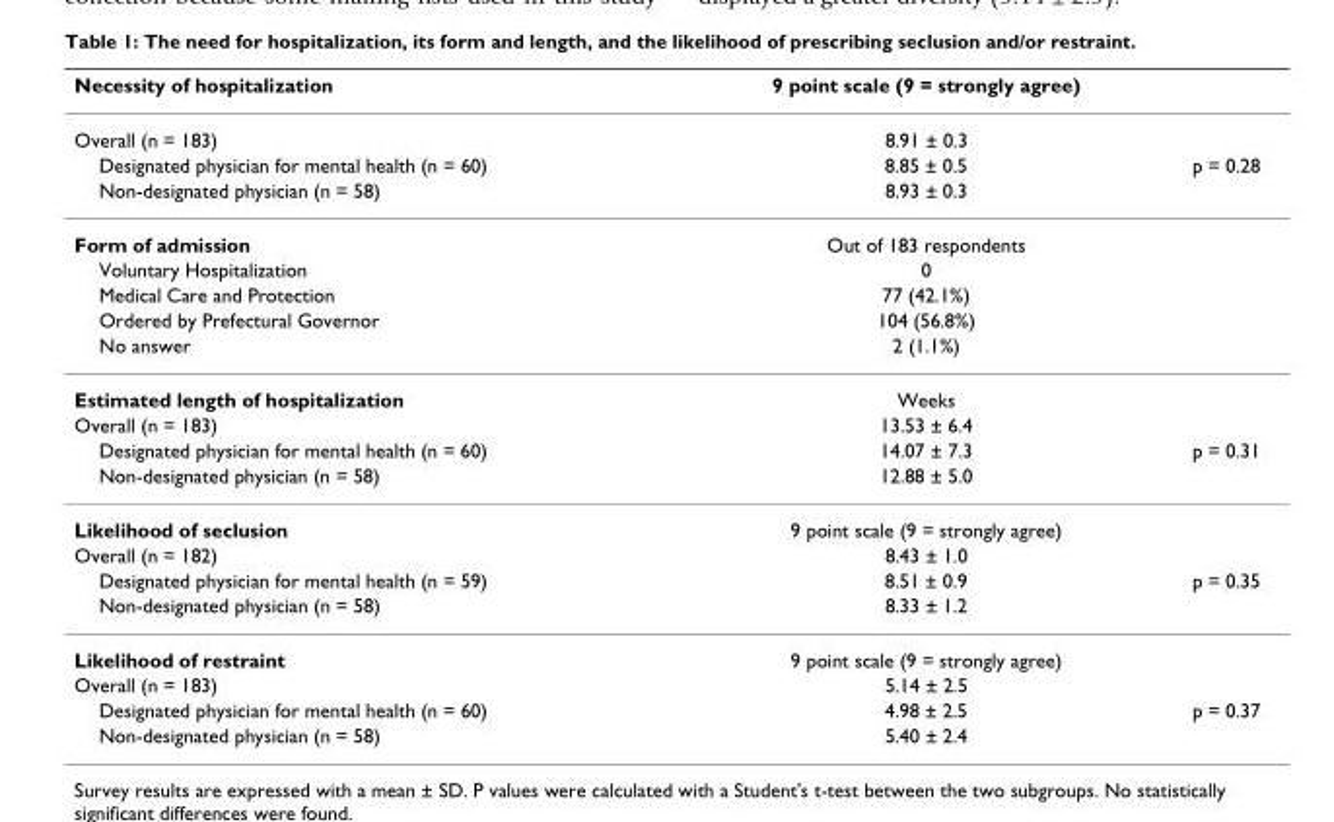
<table><thead><tr><td>Necessity of hospitalization</td><td>9 point scale (9 = strongly agree)</td><td></td></tr></thead><tbody><tr><td>Overall (n = 183)</td><td>8.91 ± 0.3</td><td></td></tr><tr><td>Designated physician for mental health (n = 60)</td><td>8.85 ± 0.5</td><td>p = 0.28</td></tr><tr><td>Non-designated physician (n = 58)</td><td>8.93 ± 0.3</td><td></td></tr><tr><td>Form of admission</td><td>Out of 183 respondents</td><td></td></tr><tr><td>Voluntary Hospitalization</td><td>0</td><td></td></tr><tr><td>Medical Care and Protection</td><td>77 (42.1%)</td><td></td></tr><tr><td>Ordered by Prefectural Governor</td><td>104 (56.8%)</td><td></td></tr><tr><td>No answer</td><td>2 (1.1%)</td><td></td></tr><tr><td>Estimated length of hospitalization</td><td>Weeks</td><td></td></tr><tr><td>Overall (n = 183)</td><td>13.53 ± 6.4</td><td></td></tr><tr><td>Designated physician for mental health (n = 60)</td><td>14.07 ± 7.3</td><td>p = 0.31</td></tr><tr><td>Non-designated physician (n = 58)</td><td>12.88 ± 5.0</td><td></td></tr><tr><td>Likelihood of seclusion</td><td>9 point scale (9 = strongly agree)</td><td></td></tr><tr><td>Overall (n = 182)</td><td>8.43 ± 1.0</td><td></td></tr><tr><td>Designated physician for mental health (n = 59)</td><td>8.51 ± 0.9</td><td>p = 0.35</td></tr><tr><td>Non-designated physician (n = 58)</td><td>8.33 ± 1.2</td><td></td></tr><tr><td>Likelihood of restraint</td><td>9 point scale (9 = strongly agree)</td><td></td></tr><tr><td>Overall (n = 183)</td><td>5.14 ± 2.5</td><td></td></tr><tr><td>Designated physician for mental health (n = 60)</td><td>4.98 ± 2.5</td><td>p = 0.37</td></tr><tr><td>Non-designated physician (n = 58)</td><td>5.40 ± 2.4</td><td></td></tr></tbody></table>